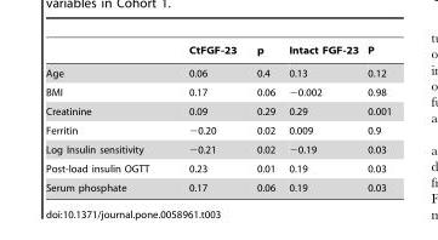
<table><thead><tr><td></td><td>CtFGF-23</td><td>p</td><td>Intact FGF-23</td><td>P</td></tr></thead><tbody><tr><td>Age</td><td>0.06</td><td>0.4</td><td>0.13</td><td>0.12</td></tr><tr><td>BMI</td><td>0.17</td><td>0.06</td><td>−0.002</td><td>0.98</td></tr><tr><td>Creatinine</td><td>0.09</td><td>0.29</td><td>0.29</td><td>0.001</td></tr><tr><td>Ferritin</td><td>−0.20</td><td>0.02</td><td>0.009</td><td>0.9</td></tr><tr><td>Log Insulin sensitivity</td><td>−0.21</td><td>0.02</td><td>−0.19</td><td>0.03</td></tr><tr><td>Post-load insulin OGTT</td><td>0.23</td><td>0.01</td><td>0.19</td><td>0.03</td></tr><tr><td>Serum phosphate</td><td>0.17</td><td>0.06</td><td>0.19</td><td>0.03</td></tr></tbody></table>